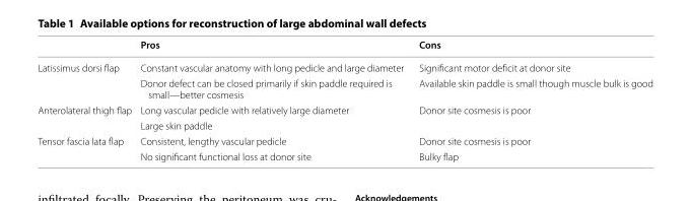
<table><thead><tr><td></td><td>Pros</td><td>Cons</td></tr></thead><tbody><tr><td rowspan="2">Latissimus dorsi flap</td><td>Constant vascular anatomy with long pedicle and large diameter</td><td>Significant motor deficit at donor site</td></tr><tr><td>Donor defect can be closed primarily if skin paddle required is small—better cosmesis</td><td>Available skin paddle is small though muscle bulk is good</td></tr><tr><td rowspan="2">Anterolateral thigh flap</td><td>Long vascular pedicle with relatively large diameter</td><td>Donor site cosmesis is poor</td></tr><tr><td>Large skin paddle</td><td></td></tr><tr><td rowspan="2">Tensor fascia lata flap</td><td>Consistent, lengthy vascular pedicle</td><td>Donor site cosmesis is poor</td></tr><tr><td>No significant functional loss at donor site</td><td>Bulky flap</td></tr></tbody></table>